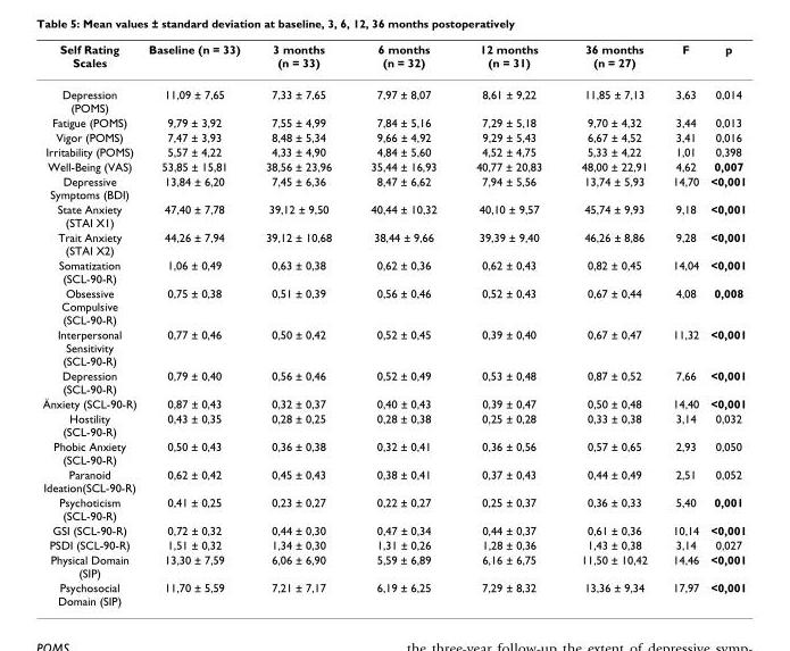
<table><thead><tr><td>Self Rating Scales</td><td>Baseline (n = 33)</td><td>3 months (n = 33)</td><td>6 months (n = 32)</td><td>12 months (n = 31)</td><td>36 months (n = 27)</td><td>F</td><td>p</td></tr></thead><tbody><tr><td>Depression (POMS)</td><td>11,09 ± 7,65</td><td>7,33 ± 7,65</td><td>7,97 ± 8,07</td><td>8,61 ± 9,22</td><td>11,85 ± 7,13</td><td>3,63</td><td>0,014</td></tr><tr><td>Fatigue (POMS)</td><td>9,79 ± 3,92</td><td>7,55 ± 4,99</td><td>7,84 ± 5,16</td><td>7,29 ± 5,18</td><td>9,70 ± 4,32</td><td>3,44</td><td>0,013</td></tr><tr><td>Vigor (POMS)</td><td>7,47 ± 3,93</td><td>8,48 ± 5,34</td><td>9,66 ± 4,92</td><td>9,29 ± 5,43</td><td>6,67 ± 4,52</td><td>3,41</td><td>0,016</td></tr><tr><td>Irritability (POMS)</td><td>5,57 ± 4,22</td><td>4,33 ± 4,90</td><td>4,84 ± 5,60</td><td>4,52 ± 4,75</td><td>5,33 ± 4,22</td><td>1,01</td><td>0,398</td></tr><tr><td>Well-Being (VAS)</td><td>53,85 ± 15,81</td><td>38,56 ± 23,96</td><td>35,44 ± 16,93</td><td>40,77 ± 20,83</td><td>48,00 ± 22,91</td><td>4,62</td><td>0,007</td></tr><tr><td>Depressive Symptoms (BDI)</td><td>13,84 ± 6,20</td><td>7,45 ± 6,36</td><td>8,47 ± 6,62</td><td>7,94 ± 5,56</td><td>13,74 ± 5,93</td><td>14,70</td><td>&lt;0,001</td></tr><tr><td>State Anxiety (STAI X1)</td><td>47,40 ± 7,78</td><td>39,12 ± 9,50</td><td>40,44 ± 10,32</td><td>40,10 ± 9,57</td><td>45,74 ± 9,93</td><td>9,18</td><td>&lt;0,001</td></tr><tr><td>Trait Anxiety (STAI X2)</td><td>44,26 ± 7,94</td><td>39,12 ± 10,68</td><td>38,44 ± 9,66</td><td>39,39 ± 9,40</td><td>46,26 ± 8,86</td><td>9,28</td><td>&lt;0,001</td></tr><tr><td>Somatization (SCL-90-R)</td><td>1,06 ± 0,49</td><td>0,63 ± 0,38</td><td>0,62 ± 0,36</td><td>0,62 ± 0,43</td><td>0,82 ± 0,45</td><td>14,04</td><td>&lt;0,001</td></tr><tr><td>Obsessive Compulsive (SCL-90-R)</td><td>0,75 ± 0,38</td><td>0,51 ± 0,39</td><td>0,56 ± 0,46</td><td>0,52 ± 0,43</td><td>0,67 ± 0,44</td><td>4,08</td><td>0,008</td></tr><tr><td>Interpersonal Sensitivity (SCL-90-R)</td><td>0,77 ± 0,46</td><td>0,50 ± 0,42</td><td>0,52 ± 0,45</td><td>0,39 ± 0,40</td><td>0,67 ± 0,47</td><td>11,32</td><td>&lt;0,001</td></tr><tr><td>Depression (SCL-90-R)</td><td>0,79 ± 0,40</td><td>0,56 ± 0,46</td><td>0,52 ± 0,49</td><td>0,53 ± 0,48</td><td>0,87 ± 0,52</td><td>7,66</td><td>&lt;0,001</td></tr><tr><td>Änxiety (SCL-90-R)</td><td>0,87 ± 0,43</td><td>0,32 ± 0,37</td><td>0,40 ± 0,43</td><td>0,39 ± 0,47</td><td>0,50 ± 0,48</td><td>14,40</td><td>&lt;0,001</td></tr><tr><td>Hostility (SCL-90-R)</td><td>0,43 ± 0,35</td><td>0,28 ± 0,25</td><td>0,28 ± 0,38</td><td>0,25 ± 0,28</td><td>0,33 ± 0,38</td><td>3,14</td><td>0,032</td></tr><tr><td>Phobic Anxiety (SCL-90-R)</td><td>0,50 ± 0,43</td><td>0,36 ± 0,38</td><td>0,32 ± 0,41</td><td>0,36 ± 0,56</td><td>0,57 ± 0,65</td><td>2,93</td><td>0,050</td></tr><tr><td>Paranoid Ideation(SCL-90-R)</td><td>0,62 ± 0,42</td><td>0,45 ± 0,43</td><td>0,38 ± 0,41</td><td>0,37 ± 0,43</td><td>0,44 ± 0,49</td><td>2,51</td><td>0,052</td></tr><tr><td>Psychoticism (SCL-90-R)</td><td>0,41 ± 0,25</td><td>0,23 ± 0,27</td><td>0,22 ± 0,27</td><td>0,25 ± 0,37</td><td>0,36 ± 0,33</td><td>5,40</td><td>0,001</td></tr><tr><td>GSI (SCL-90-R)</td><td>0,72 ± 0,32</td><td>0,44 ± 0,30</td><td>0,47 ± 0,34</td><td>0,44 ± 0,37</td><td>0,61 ± 0,36</td><td>10,14</td><td>&lt;0,001</td></tr><tr><td>PSDI (SCL-90-R)</td><td>1,51 ± 0,32</td><td>1,34 ± 0,30</td><td>1,31 ± 0,26</td><td>1,28 ± 0,36</td><td>1,43 ± 0,38</td><td>3,14</td><td>0,027</td></tr><tr><td>Physical Domain (SIP)</td><td>13,30 ± 7,59</td><td>6,06 ± 6,90</td><td>5,59 ± 6,89</td><td>6,16 ± 6,75</td><td>11,50 ± 10,42</td><td>14,46</td><td>&lt;0,001</td></tr><tr><td>Psychosocial Domain (SIP)</td><td>11,70 ± 5,59</td><td>7,21 ± 7,17</td><td>6,19 ± 6,25</td><td>7,29 ± 8,32</td><td>13,36 ± 9,34</td><td>17,97</td><td>&lt;0,001</td></tr></tbody></table>